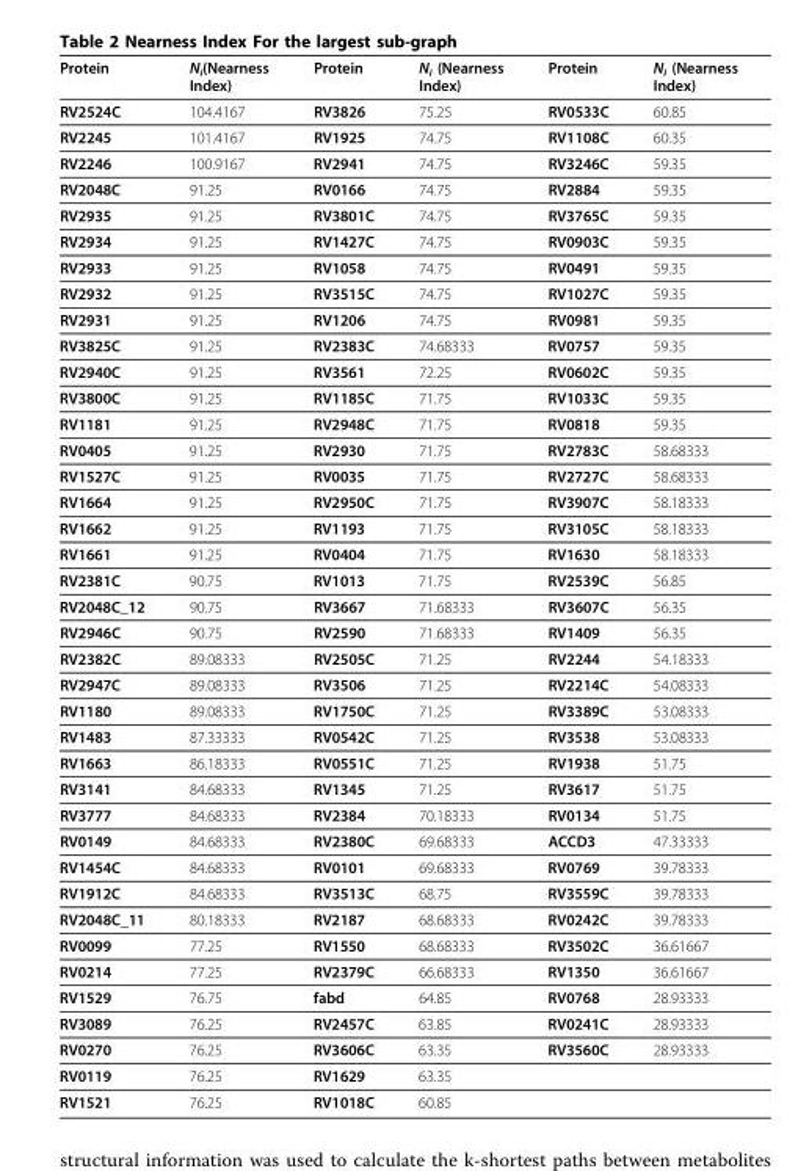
<table><thead><tr><td>Protein</td><td>N<sub>i</sub>(Nearness Index)</td><td>Protein</td><td>N<sub>i</sub> (Nearness Index)</td><td>Protein</td><td>N<sub>i</sub> (Nearness Index)</td></tr></thead><tbody><tr><td>RV2524C</td><td>104.4167</td><td>RV3826</td><td>75.25</td><td>RV0533C</td><td>60.85</td></tr><tr><td>RV2245</td><td>101.4167</td><td>RV1925</td><td>74.75</td><td>RV1108C</td><td>60.35</td></tr><tr><td>RV2246</td><td>100.9167</td><td>RV2941</td><td>74.75</td><td>RV3246C</td><td>59.35</td></tr><tr><td>RV2048C</td><td>91.25</td><td>RV0166</td><td>74.75</td><td>RV2884</td><td>59.35</td></tr><tr><td>RV2935</td><td>91.25</td><td>RV3801C</td><td>74.75</td><td>RV3765C</td><td>59.35</td></tr><tr><td>RV2934</td><td>91.25</td><td>RV1427C</td><td>74.75</td><td>RV0903C</td><td>59.35</td></tr><tr><td>RV2933</td><td>91.25</td><td>RV1058</td><td>74.75</td><td>RV0491</td><td>59.35</td></tr><tr><td>RV2932</td><td>91.25</td><td>RV3515C</td><td>74.75</td><td>RV1027C</td><td>59.35</td></tr><tr><td>RV2931</td><td>91.25</td><td>RV1206</td><td>74.75</td><td>RV0981</td><td>59.35</td></tr><tr><td>RV3825C</td><td>91.25</td><td>RV2383C</td><td>74.68333</td><td>RV0757</td><td>59.35</td></tr><tr><td>RV2940C</td><td>91.25</td><td>RV3561</td><td>72.25</td><td>RV0602C</td><td>59.35</td></tr><tr><td>RV3800C</td><td>91.25</td><td>RV1185C</td><td>71.75</td><td>RV1033C</td><td>59.35</td></tr><tr><td>RV1181</td><td>91.25</td><td>RV2948C</td><td>71.75</td><td>RV0818</td><td>59.35</td></tr><tr><td>RV0405</td><td>91.25</td><td>RV2930</td><td>71.75</td><td>RV2783C</td><td>58.68333</td></tr><tr><td>RV1527C</td><td>91.25</td><td>RV0035</td><td>71.75</td><td>RV2727C</td><td>58.68333</td></tr><tr><td>RV1664</td><td>91.25</td><td>RV2950C</td><td>71.75</td><td>RV3907C</td><td>58.18333</td></tr><tr><td>RV1662</td><td>91.25</td><td>RV1193</td><td>71.75</td><td>RV3105C</td><td>58.18333</td></tr><tr><td>RV1661</td><td>91.25</td><td>RV0404</td><td>71.75</td><td>RV1630</td><td>58.18333</td></tr><tr><td>RV2381C</td><td>90.75</td><td>RV1013</td><td>71.75</td><td>RV2539C</td><td>56.85</td></tr><tr><td>RV2048C_12</td><td>90.75</td><td>RV3667</td><td>71.68333</td><td>RV3607C</td><td>56.35</td></tr><tr><td>RV2946C</td><td>90.75</td><td>RV2590</td><td>71.68333</td><td>RV1409</td><td>56.35</td></tr><tr><td>RV2382C</td><td>89.08333</td><td>RV2505C</td><td>71.25</td><td>RV2244</td><td>54.18333</td></tr><tr><td>RV2947C</td><td>89.08333</td><td>RV3506</td><td>71.25</td><td>RV2214C</td><td>54.08333</td></tr><tr><td>RV1180</td><td>89.08333</td><td>RV1750C</td><td>71.25</td><td>RV3389C</td><td>53.08333</td></tr><tr><td>RV1483</td><td>87.33333</td><td>RV0542C</td><td>71.25</td><td>RV3538</td><td>53.08333</td></tr><tr><td>RV1663</td><td>86.18333</td><td>RV0551C</td><td>71.25</td><td>RV1938</td><td>51.75</td></tr><tr><td>RV3141</td><td>84.68333</td><td>RV1345</td><td>71.25</td><td>RV3617</td><td>51.75</td></tr><tr><td>RV3777</td><td>84.68333</td><td>RV2384</td><td>70.18333</td><td>RV0134</td><td>51.75</td></tr><tr><td>RV0149</td><td>84.68333</td><td>RV2380C</td><td>69.68333</td><td>ACCD3</td><td>47.33333</td></tr><tr><td>RV1454C</td><td>84.68333</td><td>RV0101</td><td>69.68333</td><td>RV0769</td><td>39.78333</td></tr><tr><td>RV1912C</td><td>84.68333</td><td>RV3513C</td><td>68.75</td><td>RV3559C</td><td>39.78333</td></tr><tr><td>RV2048C_11</td><td>80.18333</td><td>RV2187</td><td>68.68333</td><td>RV0242C</td><td>39.78333</td></tr><tr><td>RV0099</td><td>77.25</td><td>RV1550</td><td>68.68333</td><td>RV3502C</td><td>36.61667</td></tr><tr><td>RV0214</td><td>77.25</td><td>RV2379C</td><td>66.68333</td><td>RV1350</td><td>36.61667</td></tr><tr><td>RV1529</td><td>76.75</td><td>fabd</td><td>64.85</td><td>RV0768</td><td>28.93333</td></tr><tr><td>RV3089</td><td>76.25</td><td>RV2457C</td><td>63.85</td><td>RV0241C</td><td>28.93333</td></tr><tr><td>RV0270</td><td>76.25</td><td>RV3606C</td><td>63.35</td><td>RV3560C</td><td>28.93333</td></tr><tr><td>RV0119</td><td>76.25</td><td>RV1629</td><td>63.35</td><td></td><td></td></tr><tr><td>RV1521</td><td>76.25</td><td>RV1018C</td><td>60.85</td><td></td><td></td></tr></tbody></table>